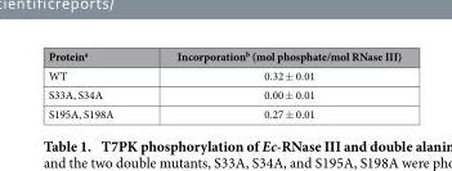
<table><thead><tr><td>Protein<sup>a</sup></td><td>Incorporation<sup>b</sup> (mol phosphate/mol RNase III)</td></tr></thead><tbody><tr><td>WT</td><td>0.32 ± 0.01</td></tr><tr><td>S33A, S34A</td><td>0.00 ± 0.01</td></tr><tr><td>S195A, S198A</td><td>0.27 ± 0.01</td></tr></tbody></table>